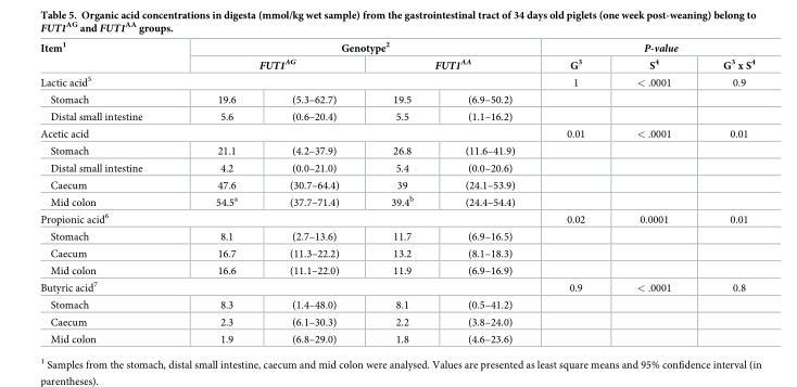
<table><thead><tr><td rowspan="2">Item<sup>1</sup></td><td colspan="4">Genotype<sup>2</sup></td><td colspan="3">P-value</td></tr><tr><td colspan="2">FUT1<sup>AG</sup></td><td colspan="2">FUT1<sup>AA</sup></td><td rowspan="3">G<sup>3</sup> 1</td><td rowspan="3">S<sup>4</sup> &lt; .0001</td><td rowspan="3">G<sup>3</sup> x S<sup>4</sup> 0.9</td></tr><tr><td colspan="5">Lactic acid<sup>5</sup></td></tr><tr><td>Stomach</td><td>19.6</td><td>(5.3–62.7)</td><td>19.5</td><td>(6.9–50.2)</td></tr></thead><tbody><tr><td>Distal small intestine</td><td>5.6</td><td>(0.6–20.4)</td><td>5.5</td><td>(1.1–16.2)</td><td></td><td></td><td></td></tr><tr><td colspan="5">Acetic acid</td><td>0.01</td><td>&lt; .0001</td><td>0.01</td></tr><tr><td>Stomach</td><td>21.1</td><td>(4.2–37.9)</td><td>26.8</td><td>(11.6–41.9)</td><td></td><td></td><td></td></tr><tr><td>Distal small intestine</td><td>4.2</td><td>(0.0–21.0)</td><td>5.4</td><td>(0.0–20.6)</td><td></td><td></td><td></td></tr><tr><td>Caecum</td><td>47.6</td><td>(30.7–64.4)</td><td>39</td><td>(24.1–53.9)</td><td></td><td></td><td></td></tr><tr><td>Mid colon</td><td>54.5<sup>a</sup></td><td>(37.7–71.4)</td><td>39.4<sup>b</sup></td><td>(24.4–54.4)</td><td></td><td></td><td></td></tr><tr><td colspan="5">Propionic acid<sup>6</sup></td><td>0.02</td><td>0.0001</td><td>0.01</td></tr><tr><td>Stomach</td><td>8.1</td><td>(2.7–13.6)</td><td>11.7</td><td>(6.9–16.5)</td><td></td><td></td><td></td></tr><tr><td>Caecum</td><td>16.7</td><td>(11.3–22.2)</td><td>13.2</td><td>(8.1–18.3)</td><td></td><td></td><td></td></tr><tr><td>Mid colon</td><td>16.6</td><td>(11.1–22.0)</td><td>11.9</td><td>(6.9–16.9)</td><td></td><td></td><td></td></tr><tr><td colspan="5">Butyric acid<sup>7</sup></td><td>0.9</td><td>&lt; .0001</td><td>0.8</td></tr><tr><td>Stomach</td><td>8.3</td><td>(1.4–48.0)</td><td>8.1</td><td>(0.5–41.2)</td><td></td><td></td><td></td></tr><tr><td>Caecum</td><td>2.3</td><td>(6.1–30.3)</td><td>2.2</td><td>(3.8–24.0)</td><td></td><td></td><td></td></tr><tr><td>Mid colon</td><td>1.9</td><td>(6.8–29.0)</td><td>1.8</td><td>(4.6–23.6)</td><td></td><td></td><td></td></tr></tbody></table>